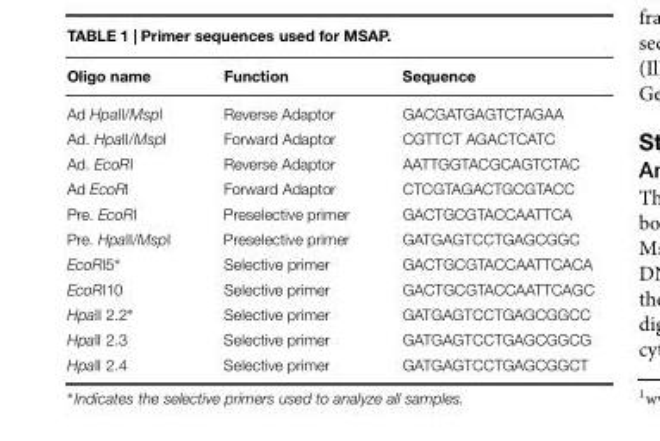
<table><thead><tr><td>Oligo name</td><td>Function</td><td>Sequence</td></tr></thead><tbody><tr><td>Ad HpaII/MspI</td><td>Reverse Adaptor</td><td>GACGATGAGTCTAGAA</td></tr><tr><td>Ad. HpaII/MspI</td><td>Forward Adaptor</td><td>CGTTCT AGACTCATC</td></tr><tr><td>Ad. EcoRI</td><td>Reverse Adaptor</td><td>AATTGGTACGCAGTCTAC</td></tr><tr><td>Ad EcoRI</td><td>Forward Adaptor</td><td>CTCGTAGACTGCGTACC</td></tr><tr><td>Pre. EcoRI</td><td>Preselective primer</td><td>GACTGCGTACCAATTCA</td></tr><tr><td>Pre. HpaII/MspI</td><td>Preselective primer</td><td>GATGAGTCCTGAGCGGC</td></tr><tr><td>EcoRI5∗</td><td>Selective primer</td><td>GACTGCGTACCAATTCACA</td></tr><tr><td>EcoRI10</td><td>Selective primer</td><td>GACTGCGTACCAATTCAGC</td></tr><tr><td>HpaII 2.2∗</td><td>Selective primer</td><td>GATGAGTCCTGAGCGGCC</td></tr><tr><td>HpaII 2.3</td><td>Selective primer</td><td>GATGAGTCCTGAGCGGCG</td></tr><tr><td>HpaII 2.4</td><td>Selective primer</td><td>GATGAGTCCTGAGCGGCT</td></tr></tbody></table>